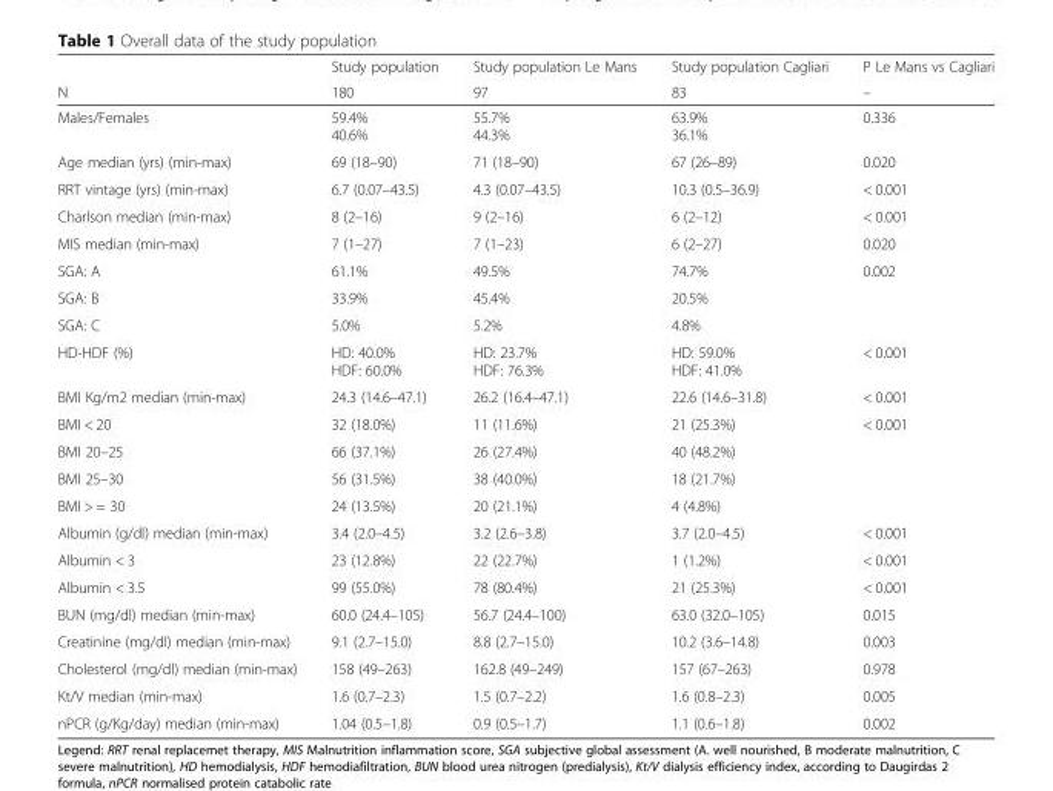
<table><thead><tr><td rowspan="2">N</td><td rowspan="2">Study population 180</td><td rowspan="2">Study population Le Mans 97</td><td rowspan="2">Study population Cagliari 83</td><td rowspan="2">P Le Mans vs Cagliari –</td></tr><tr></tr></thead><tbody><tr><td>Males/Females</td><td>59.4% 40.6%</td><td>55.7% 44.3%</td><td>63.9% 36.1%</td><td>0.336</td></tr><tr><td>Age median (yrs) (min-max)</td><td>69 (18–90)</td><td>71 (18–90)</td><td>67 (26–89)</td><td>0.020</td></tr><tr><td>RRT vintage (yrs) (min-max)</td><td>6.7 (0.07–43.5)</td><td>4.3 (0.07–43.5)</td><td>10.3 (0.5–36.9)</td><td>&lt; 0.001</td></tr><tr><td>Charlson median (min-max)</td><td>8 (2–16)</td><td>9 (2–16)</td><td>6 (2–12)</td><td>&lt; 0.001</td></tr><tr><td>MIS median (min-max)</td><td>7 (1–27)</td><td>7 (1–23)</td><td>6 (2–27)</td><td>0.020</td></tr><tr><td>SGA: A</td><td>61.1%</td><td>49.5%</td><td>74.7%</td><td rowspan="3">0.002</td></tr><tr><td>SGA: B</td><td>33.9%</td><td>45.4%</td><td>20.5%</td></tr><tr><td>SGA: C</td><td>5.0%</td><td>5.2%</td><td>4.8%</td></tr><tr><td>HD-HDF (%)</td><td>HD: 40.0% HDF: 60.0%</td><td>HD: 23.7% HDF: 76.3%</td><td>HD: 59.0% HDF: 41.0%</td><td>&lt; 0.001</td></tr><tr><td>BMI Kg/m2 median (min-max)</td><td>24.3 (14.6–47.1)</td><td>26.2 (16.4–47.1)</td><td>22.6 (14.6–31.8)</td><td>&lt; 0.001</td></tr><tr><td>BMI &lt; 20</td><td>32 (18.0%)</td><td>11 (11.6%)</td><td>21 (25.3%)</td><td rowspan="4">&lt; 0.001</td></tr><tr><td>BMI 20–25</td><td>66 (37.1%)</td><td>26 (27.4%)</td><td>40 (48.2%)</td></tr><tr><td>BMI 25–30</td><td>56 (31.5%)</td><td>38 (40.0%)</td><td>18 (21.7%)</td></tr><tr><td>BMI &gt; = 30</td><td>24 (13.5%)</td><td>20 (21.1%)</td><td>4 (4.8%)</td></tr><tr><td>Albumin (g/dl) median (min-max)</td><td>3.4 (2.0–4.5)</td><td>3.2 (2.6–3.8)</td><td>3.7 (2.0–4.5)</td><td>&lt; 0.001</td></tr><tr><td>Albumin &lt; 3</td><td>23 (12.8%)</td><td>22 (22.7%)</td><td>1 (1.2%)</td><td>&lt; 0.001</td></tr><tr><td>Albumin &lt; 3.5</td><td>99 (55.0%)</td><td>78 (80.4%)</td><td>21 (25.3%)</td><td>&lt; 0.001</td></tr><tr><td>BUN (mg/dl) median (min-max)</td><td>60.0 (24.4–105)</td><td>56.7 (24.4–100)</td><td>63.0 (32.0–105)</td><td>0.015</td></tr><tr><td>Creatinine (mg/dl) median (min-max)</td><td>9.1 (2.7–15.0)</td><td>8.8 (2.7–15.0)</td><td>10.2 (3.6–14.8)</td><td>0.003</td></tr><tr><td>Cholesterol (mg/dl) median (min-max)</td><td>158 (49–263)</td><td>162.8 (49–249)</td><td>157 (67–263)</td><td>0.978</td></tr><tr><td>Kt/V median (min-max)</td><td>1.6 (0.7–2.3)</td><td>1.5 (0.7–2.2)</td><td>1.6 (0.8–2.3)</td><td>0.005</td></tr><tr><td>nPCR (g/Kg/day) median (min-max)</td><td>1.04 (0.5–1.8)</td><td>0.9 (0.5–1.7)</td><td>1.1 (0.6–1.8)</td><td>0.002</td></tr></tbody></table>